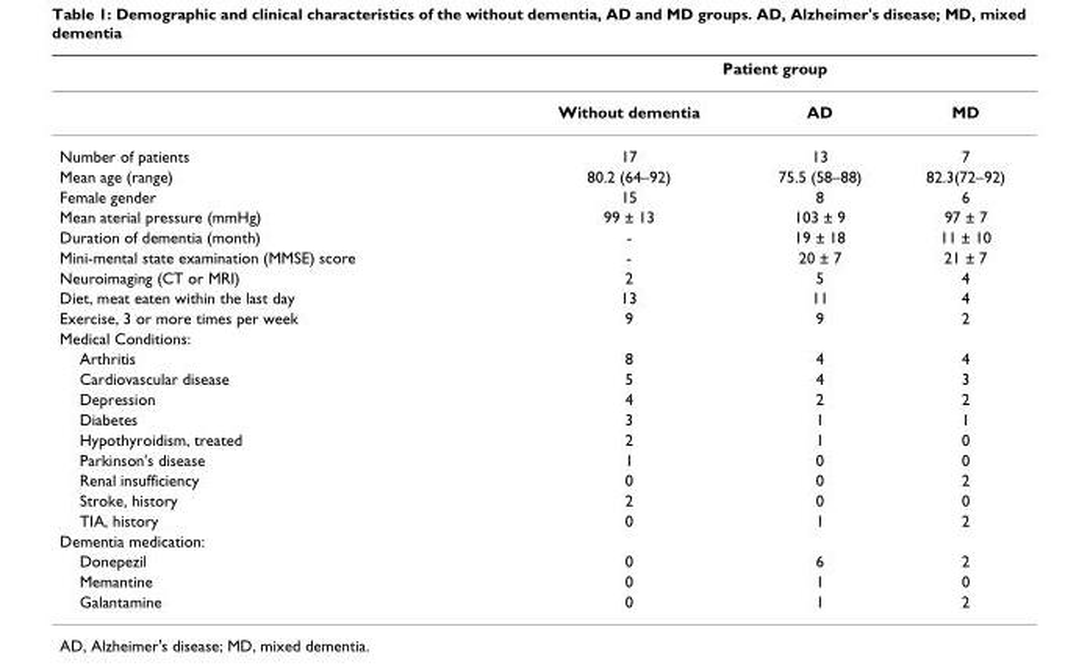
<table><thead><tr><td rowspan="2"></td><td colspan="3">Patient group</td></tr><tr><td>Without dementia</td><td>AD</td><td>MD</td></tr></thead><tbody><tr><td>Number of patients</td><td>17</td><td>13</td><td>7</td></tr><tr><td>Mean age (range)</td><td>80.2 (64–92)</td><td>75.5 (58–88)</td><td>82.3(72–92)</td></tr><tr><td>Female gender</td><td>15</td><td>8</td><td>6</td></tr><tr><td>Mean aterial pressure (mmHg)</td><td>99 ± 13</td><td>103 ± 9</td><td>97 ± 7</td></tr><tr><td>Duration of dementia (month)</td><td>-</td><td>19 ± 18</td><td>11 ± 10</td></tr><tr><td>Mini-mental state examination (MMSE) score</td><td>-</td><td>20 ± 7</td><td>21 ± 7</td></tr><tr><td>Neuroimaging (CT or MRI)</td><td>2</td><td>5</td><td>4</td></tr><tr><td>Diet, meat eaten within the last day</td><td>13</td><td>11</td><td>4</td></tr><tr><td>Exercise, 3 or more times per week</td><td>9</td><td>9</td><td>2</td></tr><tr><td colspan="4">Medical Conditions:</td></tr><tr><td>Arthritis</td><td>8</td><td>4</td><td>4</td></tr><tr><td>Cardiovascular disease</td><td>5</td><td>4</td><td>3</td></tr><tr><td>Depression</td><td>4</td><td>2</td><td>2</td></tr><tr><td>Diabetes</td><td>3</td><td>1</td><td>1</td></tr><tr><td>Hypothyroidism, treated</td><td>2</td><td>1</td><td>0</td></tr><tr><td>Parkinson&#x27;s disease</td><td>1</td><td>0</td><td>0</td></tr><tr><td>Renal insufficiency</td><td>0</td><td>0</td><td>2</td></tr><tr><td>Stroke, history</td><td>2</td><td>0</td><td>0</td></tr><tr><td>TIA, history</td><td>0</td><td>1</td><td>2</td></tr><tr><td colspan="4">Dementia medication:</td></tr><tr><td>Donepezil</td><td>0</td><td>6</td><td>2</td></tr><tr><td>Memantine</td><td>0</td><td>1</td><td>0</td></tr><tr><td>Galantamine</td><td>0</td><td>1</td><td>2</td></tr></tbody></table>